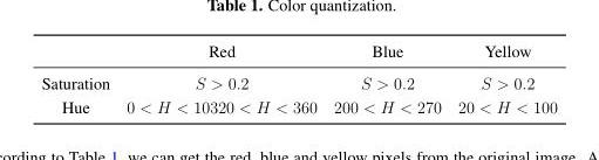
<table><thead><tr><td></td><td>Red</td><td>Blue</td><td>Yellow</td></tr></thead><tbody><tr><td>Saturation</td><td>S &gt; 0.2</td><td>S &gt; 0.2</td><td>S &gt; 0.2</td></tr><tr><td>Hue</td><td>0 &lt; H &lt; 10320 &lt; H &lt; 360</td><td>200 &lt; H &lt; 270</td><td>20 &lt; H &lt; 100</td></tr></tbody></table>